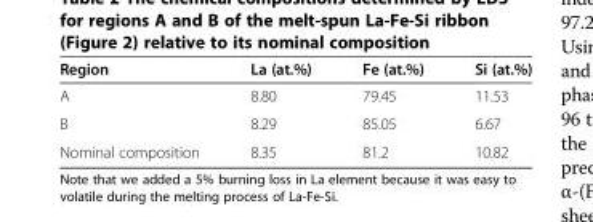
<table><thead><tr><td>Region</td><td>La (at.%)</td><td>Fe (at.%)</td><td>Si (at.%)</td></tr></thead><tbody><tr><td>A</td><td>8.80</td><td>79.45</td><td>11.53</td></tr><tr><td>B</td><td>8.29</td><td>85.05</td><td>6.67</td></tr><tr><td>Nominal composition</td><td>8.35</td><td>81.2</td><td>10.82</td></tr></tbody></table>